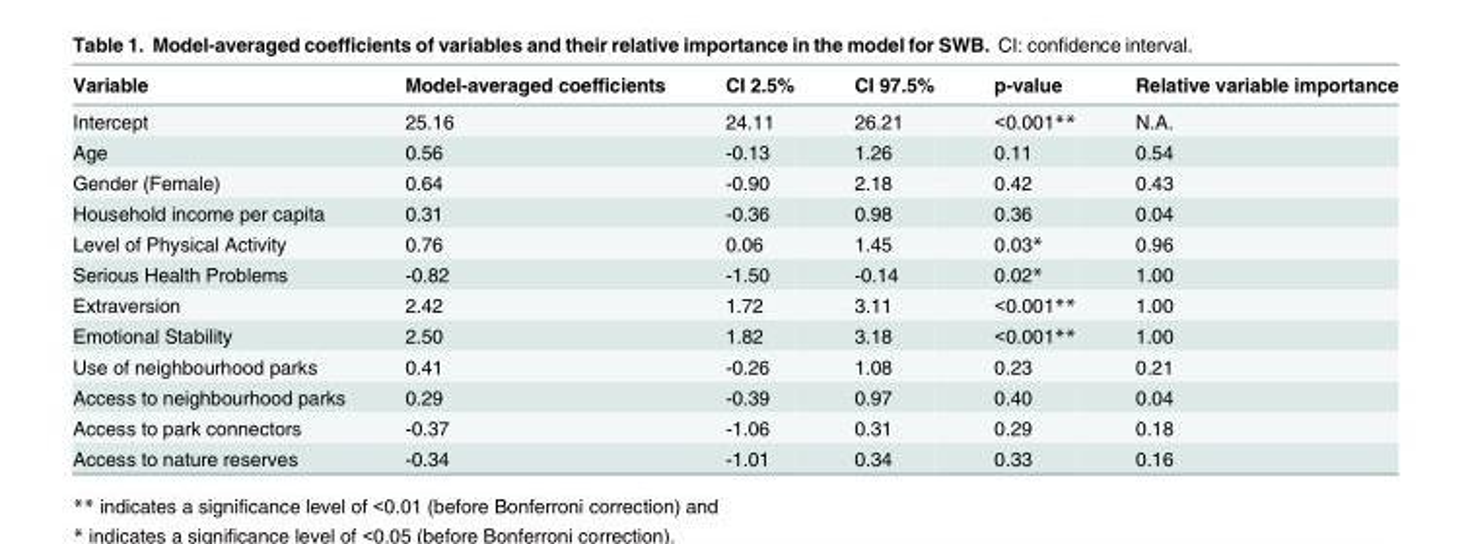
<table><thead><tr><td>Variable</td><td>Model-averaged coefficients</td><td>CI 2.5%</td><td>CI 97.5%</td><td>p-value</td><td>Relative variable importance</td></tr></thead><tbody><tr><td>Intercept</td><td>25.16</td><td>24.11</td><td>26.21</td><td>&lt;0.001**</td><td>N.A.</td></tr><tr><td>Age</td><td>0.56</td><td>-0.13</td><td>1.26</td><td>0.11</td><td>0.54</td></tr><tr><td>Gender (Female)</td><td>0.64</td><td>-0.90</td><td>2.18</td><td>0.42</td><td>0.43</td></tr><tr><td>Household income per capita</td><td>0.31</td><td>-0.36</td><td>0.98</td><td>0.36</td><td>0.04</td></tr><tr><td>Level of Physical Activity</td><td>0.76</td><td>0.06</td><td>1.45</td><td>0.03*</td><td>0.96</td></tr><tr><td>Serious Health Problems</td><td>-0.82</td><td>-1.50</td><td>-0.14</td><td>0.02*</td><td>1.00</td></tr><tr><td>Extraversion</td><td>2.42</td><td>1.72</td><td>3.11</td><td>&lt;0.001**</td><td>1.00</td></tr><tr><td>Emotional Stability</td><td>2.50</td><td>1.82</td><td>3.18</td><td>&lt;0.001**</td><td>1.00</td></tr><tr><td>Use of neighbourhood parks</td><td>0.41</td><td>-0.26</td><td>1.08</td><td>0.23</td><td>0.21</td></tr><tr><td>Access to neighbourhood parks</td><td>0.29</td><td>-0.39</td><td>0.97</td><td>0.40</td><td>0.04</td></tr><tr><td>Access to park connectors</td><td>-0.37</td><td>-1.06</td><td>0.31</td><td>0.29</td><td>0.18</td></tr><tr><td>Access to nature reserves</td><td>-0.34</td><td>-1.01</td><td>0.34</td><td>0.33</td><td>0.16</td></tr></tbody></table>